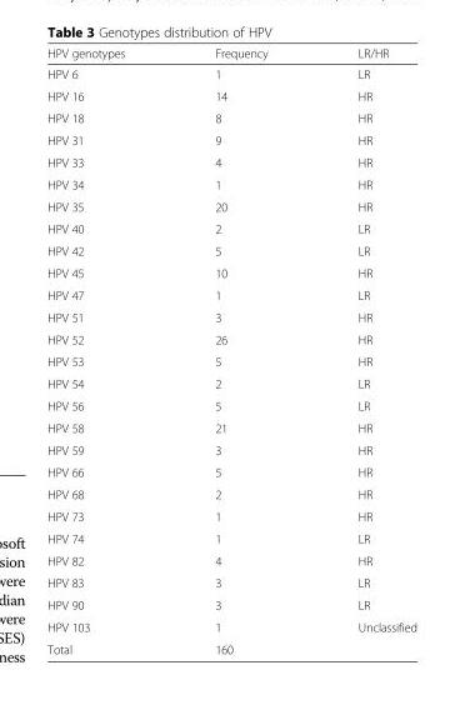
<table><thead><tr><td>HPV genotypes</td><td>Frequency</td><td>LR/HR</td></tr></thead><tbody><tr><td>HPV 6</td><td>1</td><td>LR</td></tr><tr><td>HPV 16</td><td>14</td><td>HR</td></tr><tr><td>HPV 18</td><td>8</td><td>HR</td></tr><tr><td>HPV 31</td><td>9</td><td>HR</td></tr><tr><td>HPV 33</td><td>4</td><td>HR</td></tr><tr><td>HPV 34</td><td>1</td><td>HR</td></tr><tr><td>HPV 35</td><td>20</td><td>HR</td></tr><tr><td>HPV 40</td><td>2</td><td>LR</td></tr><tr><td>HPV 42</td><td>5</td><td>LR</td></tr><tr><td>HPV 45</td><td>10</td><td>HR</td></tr><tr><td>HPV 47</td><td>1</td><td>LR</td></tr><tr><td>HPV 51</td><td>3</td><td>HR</td></tr><tr><td>HPV 52</td><td>26</td><td>HR</td></tr><tr><td>HPV 53</td><td>5</td><td>HR</td></tr><tr><td>HPV 54</td><td>2</td><td>LR</td></tr><tr><td>HPV 56</td><td>5</td><td>LR</td></tr><tr><td>HPV 58</td><td>21</td><td>HR</td></tr><tr><td>HPV 59</td><td>3</td><td>HR</td></tr><tr><td>HPV 66</td><td>5</td><td>HR</td></tr><tr><td>HPV 68</td><td>2</td><td>HR</td></tr><tr><td>HPV 73</td><td>1</td><td>HR</td></tr><tr><td>HPV 74</td><td>1</td><td>LR</td></tr><tr><td>HPV 82</td><td>4</td><td>HR</td></tr><tr><td>HPV 83</td><td>3</td><td>LR</td></tr><tr><td>HPV 90</td><td>3</td><td>LR</td></tr><tr><td>HPV 103</td><td>1</td><td>Unclassified</td></tr><tr><td>Total</td><td>160</td><td></td></tr></tbody></table>